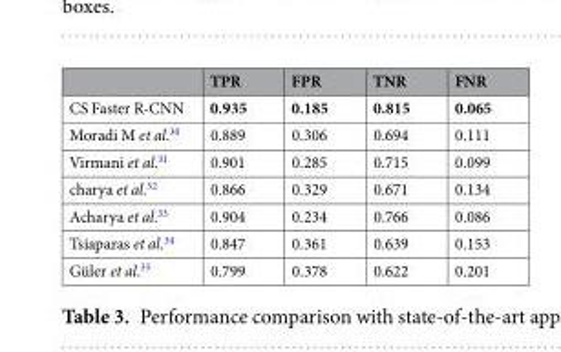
<table><thead><tr><td></td><td>TPR</td><td>FPR</td><td>TNR</td><td>FNR</td></tr></thead><tbody><tr><td>CS Faster R-CNN</td><td>0.935</td><td>0.185</td><td>0.815</td><td>0.065</td></tr><tr><td>Moradi M et al.<sup>30</sup></td><td>0.889</td><td>0.306</td><td>0.694</td><td>0.111</td></tr><tr><td>Virmani et al.<sup>31</sup></td><td>0.901</td><td>0.285</td><td>0.715</td><td>0.099</td></tr><tr><td>charya et al.<sup>32</sup></td><td>0.866</td><td>0.329</td><td>0.671</td><td>0.134</td></tr><tr><td>Acharya et al.<sup>33</sup></td><td>0.904</td><td>0.234</td><td>0.766</td><td>0.086</td></tr><tr><td>Tsiaparas et al.<sup>34</sup></td><td>0.847</td><td>0.361</td><td>0.639</td><td>0.153</td></tr><tr><td>Güler et al.<sup>35</sup></td><td>0.799</td><td>0.378</td><td>0.622</td><td>0.201</td></tr></tbody></table>